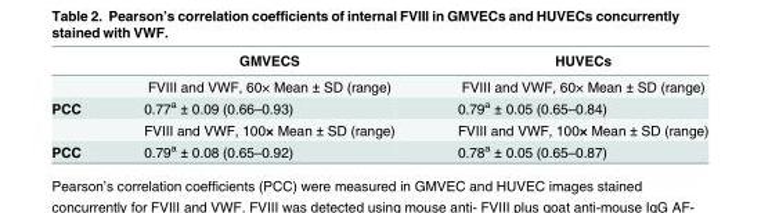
<table><thead><tr><td></td><td>GMVECS</td><td>HUVECs</td></tr></thead><tbody><tr><td></td><td>FVIII and VWF, 60× Mean ± SD (range)</td><td>FVIII and VWF, 60× Mean ± SD (range)</td></tr><tr><td rowspan="2">PCC</td><td>0.77<sup>a</sup> ± 0.09 (0.66–0.93)</td><td>0.79<sup>a</sup> ± 0.05 (0.65–0.84)</td></tr><tr><td>FVIII and VWF, 100× Mean ± SD (range)</td><td>FVIII and VWF, 100× Mean ± SD (range)</td></tr><tr><td>PCC</td><td>0.79<sup>a</sup> ± 0.08 (0.65–0.92)</td><td>0.78<sup>a</sup> ± 0.05 (0.65–0.87)</td></tr></tbody></table>